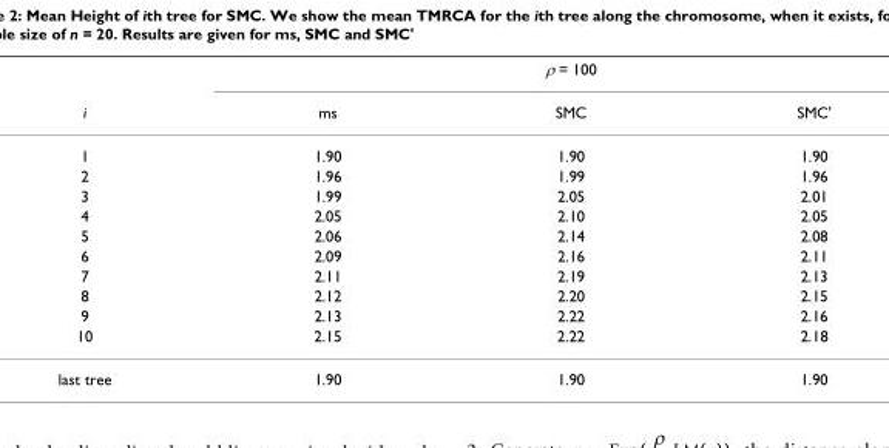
<table><thead><tr><td rowspan="2">i</td><td colspan="3">ρ = 100</td></tr><tr><td>ms</td><td>SMC</td><td>SMC&#x27;</td></tr></thead><tbody><tr><td>1</td><td>1.90</td><td>1.90</td><td>1.90</td></tr><tr><td>2</td><td>1.96</td><td>1.99</td><td>1.96</td></tr><tr><td>3</td><td>1.99</td><td>2.05</td><td>2.01</td></tr><tr><td>4</td><td>2.05</td><td>2.10</td><td>2.05</td></tr><tr><td>5</td><td>2.06</td><td>2.14</td><td>2.08</td></tr><tr><td>6</td><td>2.09</td><td>2.16</td><td>2.11</td></tr><tr><td>7</td><td>2.11</td><td>2.19</td><td>2.13</td></tr><tr><td>8</td><td>2.12</td><td>2.20</td><td>2.15</td></tr><tr><td>9</td><td>2.13</td><td>2.22</td><td>2.16</td></tr><tr><td>10</td><td>2.15</td><td>2.22</td><td>2.18</td></tr><tr><td>last tree</td><td>1.90</td><td>1.90</td><td>1.90</td></tr></tbody></table>